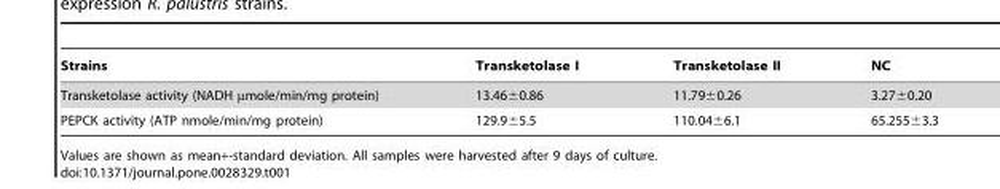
<table><thead><tr><td>Strains</td><td>Transketolase I</td><td>Transketolase II</td><td>NC</td></tr></thead><tbody><tr><td>Transketolase activity (NADH µmole/min/mg protein)</td><td>13.46±0.86</td><td>11.79±0.26</td><td>3.27±0.20</td></tr><tr><td>PEPCK activity (ATP nmole/min/mg protein)</td><td>129.9±5.5</td><td>110.04±6.1</td><td>65.255±3.3</td></tr></tbody></table>